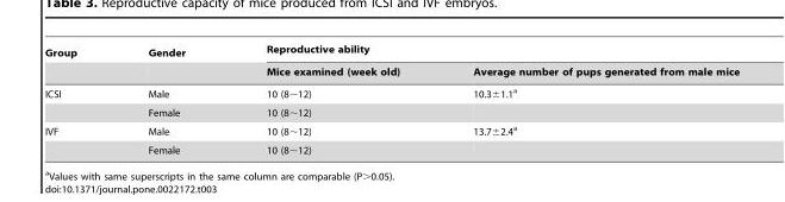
<table><thead><tr><td rowspan="2">Group</td><td rowspan="2">Gender</td><td colspan="2">Reproductive ability</td></tr><tr><td>Mice examined (week old)</td><td>Average number of pups generated from male mice</td></tr></thead><tbody><tr><td rowspan="2">ICSI</td><td>Male</td><td>10 (8∼12)</td><td>10.3±1.1<sup>a</sup></td></tr><tr><td>Female</td><td>10 (8∼12)</td><td></td></tr><tr><td rowspan="2">IVF</td><td>Male</td><td>10 (8∼12)</td><td>13.7±2.4<sup>a</sup></td></tr><tr><td>Female</td><td>10 (8∼12)</td><td></td></tr></tbody></table>